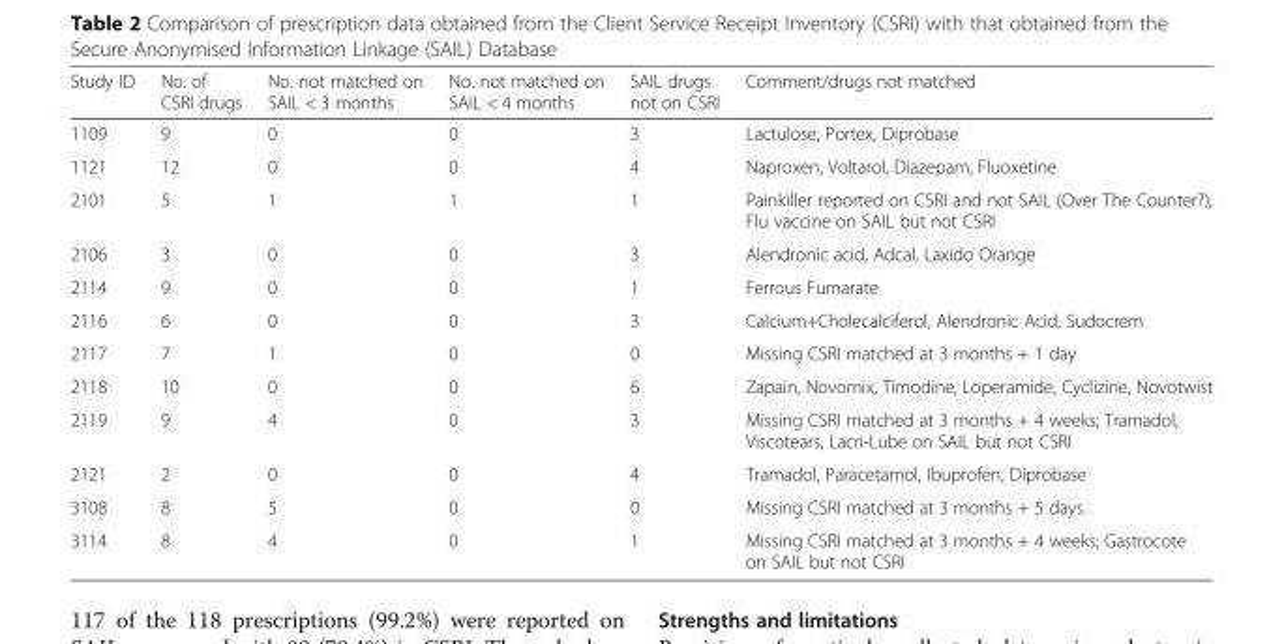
<table><thead><tr><td>Study ID</td><td>No. of CSRI drugs</td><td>No. not matched on SAIL &lt; 3 months</td><td>No. not matched on SAIL &lt; 4 months</td><td>SAIL drugs not on CSRI</td><td>Comment/drugs not matched</td></tr></thead><tbody><tr><td>1109</td><td>9</td><td>0</td><td>0</td><td>3</td><td>Lactulose, Portex, Diprobase</td></tr><tr><td>1121</td><td>12</td><td>0</td><td>0</td><td>4</td><td>Naproxen, Voltarol, Diazepam, Fluoxetine</td></tr><tr><td>2101</td><td>5</td><td>1</td><td>1</td><td>1</td><td>Painkiller reported on CSRI and not SAIL (Over The Counter?); Flu vaccine on SAIL but not CSRI</td></tr><tr><td>2106</td><td>3</td><td>0</td><td>0</td><td>3</td><td>Alendronic acid, Adcal, Laxido Orange</td></tr><tr><td>2114</td><td>9</td><td>0</td><td>0</td><td>1</td><td>Ferrous Fumarate</td></tr><tr><td>2116</td><td>6</td><td>0</td><td>0</td><td>3</td><td>Calcium+Cholecalciferol, Alendronic Acid, Sudocrem</td></tr><tr><td>2117</td><td>7</td><td>1</td><td>0</td><td>0</td><td>Missing CSRI matched at 3 months + 1 day</td></tr><tr><td>2118</td><td>10</td><td>0</td><td>0</td><td>6</td><td>Zapain, Novomix, Timodine, Loperamide, Cyclizine, Novotwist</td></tr><tr><td>2119</td><td>9</td><td>4</td><td>0</td><td>3</td><td>Missing CSRI matched at 3 months + 4 weeks; Tramadol, Viscotears, Lacri-Lube on SAIL but not CSRI</td></tr><tr><td>2121</td><td>2</td><td>0</td><td>0</td><td>4</td><td>Tramadol, Paracetamol, Ibuprofen, Diprobase</td></tr><tr><td>3108</td><td>8</td><td>5</td><td>0</td><td>0</td><td>Missing CSRI matched at 3 months + 5 days</td></tr><tr><td>3114</td><td>8</td><td>4</td><td>0</td><td>1</td><td>Missing CSRI matched at 3 months + 4 weeks; Gastrocote on SAIL but not CSRI</td></tr></tbody></table>